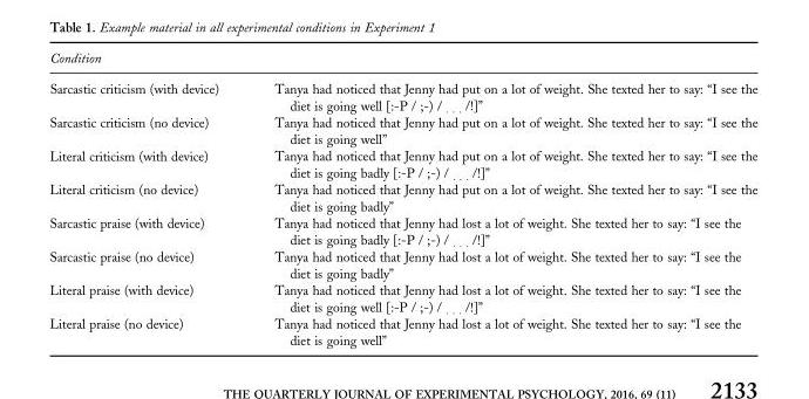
<table><thead><tr><td colspan="2">Condition</td></tr><tr><td>Sarcastic criticism (with device) Sarcastic criticism (no device) Literal criticism (with device) Literal criticism (no device) Sarcastic praise (with device) Sarcastic praise (no device) Literal praise (with device) Literal praise (no device)</td><td>Tanya had noticed that Jenny had put on a lot of weight. She texted her to say: “I see the diet is going well [:-P / ;-) / <sub>. . .</sub> /!]” Tanya had noticed that Jenny had put on a lot of weight. She texted her to say: “I see the diet is going well” Tanya had noticed that Jenny had put on a lot of weight. She texted her to say: “I see the diet is going badly [:-P / ;-) / <sub>. . .</sub> /!]” Tanya had noticed that Jenny had put on a lot of weight. She texted her to say: “I see the diet is going badly” Tanya had noticed that Jenny had lost a lot of weight. She texted her to say: “I see the diet is going badly [:-P / ;-) / <sub>. . .</sub> /!]” Tanya had noticed that Jenny had lost a lot of weight. She texted her to say: “I see the diet is going badly” Tanya had noticed that Jenny had lost a lot of weight. She texted her to say: “I see the diet is going well [:-P / ;-) / <sub>. . .</sub> /!]” Tanya had noticed that Jenny had lost a lot of weight. She texted her to say: “I see the diet is going well”</td></tr></thead><tbody></tbody></table>